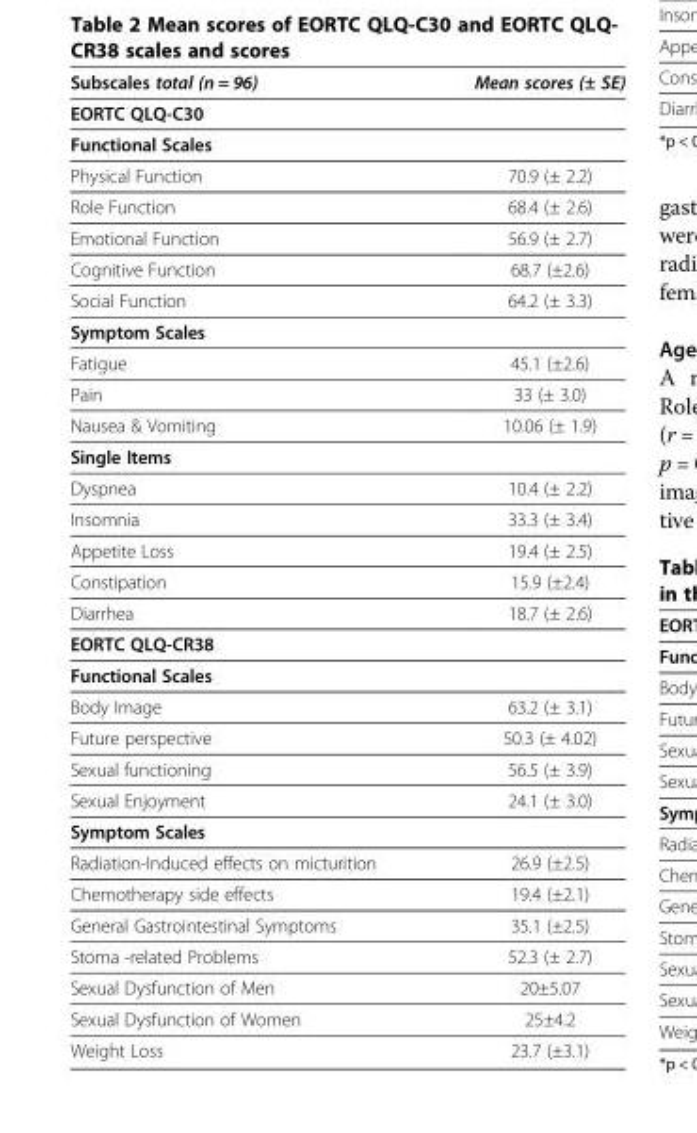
<table><thead><tr><td>Subscales total (n = 96)</td><td>Mean scores (± SE)</td></tr></thead><tbody><tr><td colspan="2">EORTC QLQ-C30</td></tr><tr><td colspan="2">Functional Scales</td></tr><tr><td>Physical Function</td><td>70.9 (± 2.2)</td></tr><tr><td>Role Function</td><td>68.4 (± 2.6)</td></tr><tr><td>Emotional Function</td><td>56.9 (± 2.7)</td></tr><tr><td>Cognitive Function</td><td>68.7 (±2.6)</td></tr><tr><td>Social Function</td><td>64.2 (± 3.3)</td></tr><tr><td colspan="2">Symptom Scales</td></tr><tr><td>Fatigue</td><td>45.1 (±2.6)</td></tr><tr><td>Pain</td><td>33 (± 3.0)</td></tr><tr><td>Nausea &amp; Vomiting</td><td>10.06 (± 1.9)</td></tr><tr><td colspan="2">Single Items</td></tr><tr><td>Dyspnea</td><td>10.4 (± 2.2)</td></tr><tr><td>Insomnia</td><td>33.3 (± 3.4)</td></tr><tr><td>Appetite Loss</td><td>19.4 (± 2.5)</td></tr><tr><td>Constipation</td><td>15.9 (±2.4)</td></tr><tr><td>Diarrhea</td><td>18.7 (± 2.6)</td></tr><tr><td colspan="2">EORTC QLQ-CR38</td></tr><tr><td colspan="2">Functional Scales</td></tr><tr><td>Body Image</td><td>63.2 (± 3.1)</td></tr><tr><td>Future perspective</td><td>50.3 (± 4.02)</td></tr><tr><td>Sexual functioning</td><td>56.5 (± 3.9)</td></tr><tr><td>Sexual Enjoyment</td><td>24.1 (± 3.0)</td></tr><tr><td colspan="2">Symptom Scales</td></tr><tr><td>Radiation-Induced effects on micturition</td><td>26.9 (±2.5)</td></tr><tr><td>Chemotherapy side effects</td><td>19.4 (±2.1)</td></tr><tr><td>General Gastrointestinal Symptoms</td><td>35.1 (±2.5)</td></tr><tr><td>Stoma -related Problems</td><td>52.3 (± 2.7)</td></tr><tr><td>Sexual Dysfunction of Men</td><td>20±5.07</td></tr><tr><td>Sexual Dysfunction of Women</td><td>25±4.2</td></tr><tr><td>Weight Loss</td><td>23.7 (±3.1)</td></tr></tbody></table>